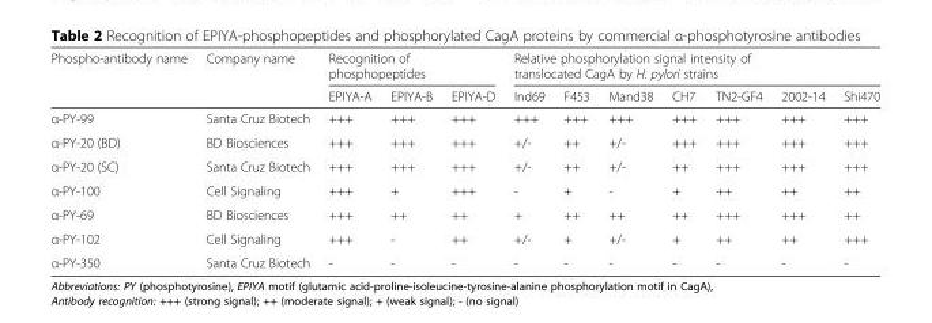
<table><thead><tr><td rowspan="2">Phospho-antibody name</td><td rowspan="2">Company name</td><td colspan="3">Recognition of phosphopeptides</td><td colspan="7">Relative phosphorylation signal intensity of translocated CagA by H. pylori strains</td></tr><tr><td>EPIYA-A</td><td>EPIYA-B</td><td>EPIYA-D</td><td>Ind69</td><td>F453</td><td>Mand38</td><td>CH7</td><td>TN2-GF4</td><td>2002-14</td><td>Shi470</td></tr></thead><tbody><tr><td>α-PY-99</td><td>Santa Cruz Biotech</td><td>+++</td><td>+++</td><td>+++</td><td>+++</td><td>+++</td><td>+++</td><td>+++</td><td>+++</td><td>+++</td><td>+++</td></tr><tr><td>α-PY-20 (BD)</td><td>BD Biosciences</td><td>+++</td><td>+++</td><td>+++</td><td>+/-</td><td>++</td><td>+/-</td><td>+++</td><td>+++</td><td>+++</td><td>+++</td></tr><tr><td>α-PY-20 (SC)</td><td>Santa Cruz Biotech</td><td>+++</td><td>+++</td><td>+++</td><td>+/-</td><td>++</td><td>+/-</td><td>++</td><td>+++</td><td>+++</td><td>+++</td></tr><tr><td>α-PY-100</td><td>Cell Signaling</td><td>+++</td><td>+</td><td>+++</td><td>-</td><td>+</td><td>-</td><td>+</td><td>++</td><td>++</td><td>++</td></tr><tr><td>α-PY-69</td><td>BD Biosciences</td><td>+++</td><td>++</td><td>++</td><td>+</td><td>++</td><td>++</td><td>++</td><td>+++</td><td>+++</td><td>++</td></tr><tr><td>α-PY-102</td><td>Cell Signaling</td><td>+++</td><td>-</td><td>++</td><td>+/-</td><td>+</td><td>+/-</td><td>+</td><td>++</td><td>++</td><td>+++</td></tr><tr><td>α-PY-350</td><td>Santa Cruz Biotech</td><td>-</td><td>-</td><td>-</td><td>-</td><td>-</td><td>-</td><td>-</td><td>-</td><td>-</td><td>-</td></tr></tbody></table>